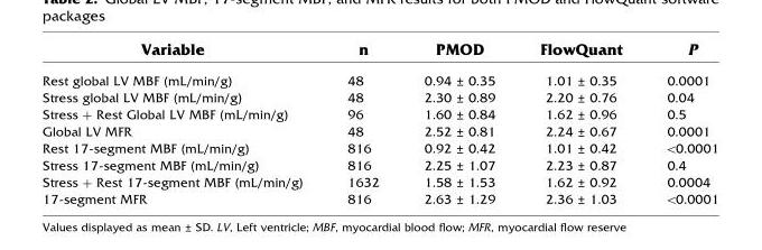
<table><thead><tr><td>Variable</td><td>n</td><td>PMOD</td><td>FlowQuant</td><td>P</td></tr></thead><tbody><tr><td>Rest global LV MBF (mL/min/g)</td><td>48</td><td>0.94 ± 0.35</td><td>1.01 ± 0.35</td><td>0.0001</td></tr><tr><td>Stress global LV MBF (mL/min/g)</td><td>48</td><td>2.30 ± 0.89</td><td>2.20 ± 0.76</td><td>0.04</td></tr><tr><td>Stress + Rest Global LV MBF (mL/min/g)</td><td>96</td><td>1.60 ± 0.84</td><td>1.62 ± 0.96</td><td>0.5</td></tr><tr><td>Global LV MFR</td><td>48</td><td>2.52 ± 0.81</td><td>2.24 ± 0.67</td><td>0.0001</td></tr><tr><td>Rest 17-segment MBF (mL/min/g)</td><td>816</td><td>0.92 ± 0.42</td><td>1.01 ± 0.42</td><td>&lt;0.0001</td></tr><tr><td>Stress 17-segment MBF (mL/min/g)</td><td>816</td><td>2.25 ± 1.07</td><td>2.23 ± 0.87</td><td>0.4</td></tr><tr><td>Stress + Rest 17-segment MBF (mL/min/g)</td><td>1632</td><td>1.58 ± 1.53</td><td>1.62 ± 0.92</td><td>0.0004</td></tr><tr><td>17-segment MFR</td><td>816</td><td>2.63 ± 1.29</td><td>2.36 ± 1.03</td><td>&lt;0.0001</td></tr></tbody></table>